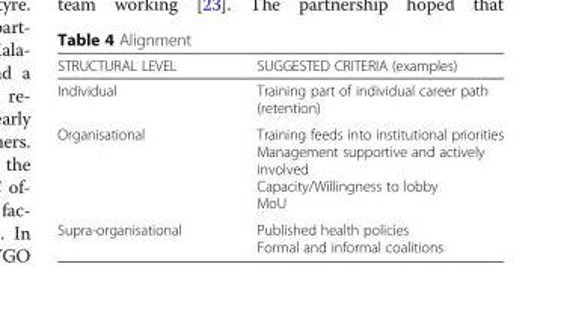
<table><thead><tr><td>STRUCTURAL LEVEL</td><td>SUGGESTED CRITERIA (examples)</td></tr></thead><tbody><tr><td>Individual</td><td>Training part of individual career path (retention)</td></tr><tr><td>Organisational</td><td>Training feeds into institutional priorities Management supportive and actively involved Capacity/Willingness to lobby MoU</td></tr><tr><td>Supra-organisational</td><td>Published health policies Formal and informal coalitions</td></tr></tbody></table>